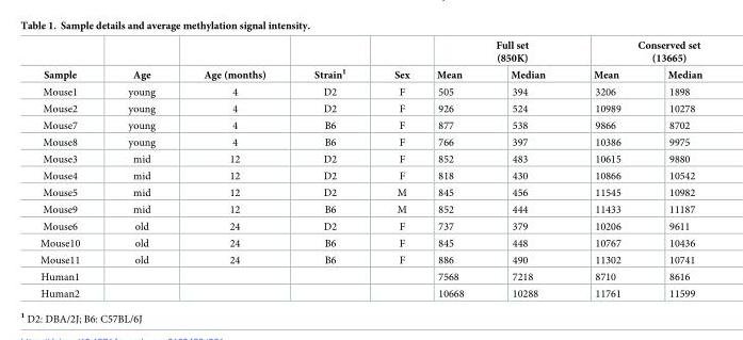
<table><thead><tr><td rowspan="2">Sample</td><td rowspan="2">Age</td><td rowspan="2">Age (months)</td><td rowspan="2">Strain<sup>1</sup></td><td rowspan="2">Sex</td><td colspan="2">Full set (850K)</td><td colspan="2">Conserved set (13665)</td></tr><tr><td>Mean</td><td>Median</td><td>Mean</td><td>Median</td></tr></thead><tbody><tr><td>Mouse1</td><td>young</td><td>4</td><td>D2</td><td>F</td><td>505</td><td>394</td><td>3206</td><td>1898</td></tr><tr><td>Mouse2</td><td>young</td><td>4</td><td>D2</td><td>F</td><td>926</td><td>524</td><td>10989</td><td>10278</td></tr><tr><td>Mouse7</td><td>young</td><td>4</td><td>B6</td><td>F</td><td>877</td><td>538</td><td>9866</td><td>8702</td></tr><tr><td>Mouse8</td><td>young</td><td>4</td><td>B6</td><td>F</td><td>766</td><td>397</td><td>10386</td><td>9975</td></tr><tr><td>Mouse3</td><td>mid</td><td>12</td><td>D2</td><td>F</td><td>852</td><td>483</td><td>10615</td><td>9880</td></tr><tr><td>Mouse4</td><td>mid</td><td>12</td><td>D2</td><td>F</td><td>818</td><td>430</td><td>10866</td><td>10542</td></tr><tr><td>Mouse5</td><td>mid</td><td>12</td><td>D2</td><td>M</td><td>845</td><td>456</td><td>11545</td><td>10982</td></tr><tr><td>Mouse9</td><td>mid</td><td>12</td><td>B6</td><td>M</td><td>852</td><td>444</td><td>11433</td><td>11187</td></tr><tr><td>Mouse6</td><td>old</td><td>24</td><td>D2</td><td>F</td><td>737</td><td>379</td><td>10206</td><td>9611</td></tr><tr><td>Mouse10</td><td>old</td><td>24</td><td>B6</td><td>F</td><td>845</td><td>448</td><td>10767</td><td>10436</td></tr><tr><td>Mouse11</td><td>old</td><td>24</td><td>B6</td><td>F</td><td>886</td><td>490</td><td>11302</td><td>10741</td></tr><tr><td>Human1</td><td></td><td></td><td></td><td></td><td>7568</td><td>7218</td><td>8710</td><td>8616</td></tr><tr><td>Human2</td><td></td><td></td><td></td><td></td><td>10668</td><td>10288</td><td>11761</td><td>11599</td></tr></tbody></table>